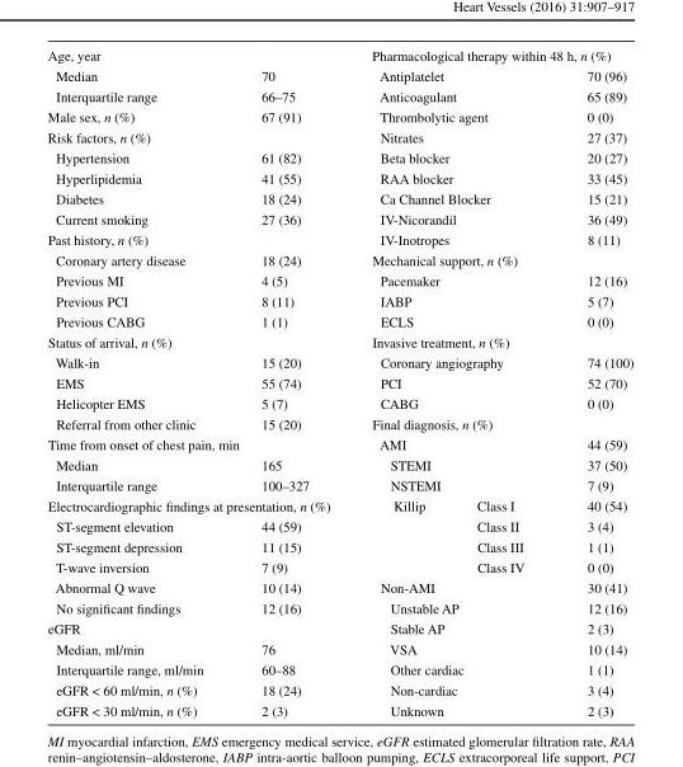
<table><tbody><tr><td colspan="2">Age, year</td><td colspan="3">Pharmacological therapy within 48 h, n (%)</td></tr><tr><td>Median</td><td>70</td><td colspan="2">Antiplatelet</td><td>70 (96)</td></tr><tr><td>Interquartile range</td><td>66–75</td><td colspan="2">Anticoagulant</td><td>65 (89)</td></tr><tr><td>Male sex, n (%)</td><td>67 (91)</td><td colspan="2">Thrombolytic agent</td><td>0 (0)</td></tr><tr><td colspan="2">Risk factors, n (%)</td><td colspan="2">Nitrates</td><td>27 (37)</td></tr><tr><td>Hypertension</td><td>61 (82)</td><td colspan="2">Beta blocker</td><td>20 (27)</td></tr><tr><td>Hyperlipidemia</td><td>41 (55)</td><td colspan="2">RAA blocker</td><td>33 (45)</td></tr><tr><td>Diabetes</td><td>18 (24)</td><td colspan="2">Ca Channel Blocker</td><td>15 (21)</td></tr><tr><td>Current smoking</td><td>27 (36)</td><td colspan="2">IV-Nicorandil</td><td>36 (49)</td></tr><tr><td colspan="2">Past history, n (%)</td><td colspan="2">IV-Inotropes</td><td>8 (11)</td></tr><tr><td>Coronary artery disease</td><td>18 (24)</td><td colspan="3">Mechanical support, n (%)</td></tr><tr><td>Previous MI</td><td>4 (5)</td><td colspan="2">Pacemaker</td><td>12 (16)</td></tr><tr><td>Previous PCI</td><td>8 (11)</td><td colspan="2">IABP</td><td>5 (7)</td></tr><tr><td>Previous CABG</td><td>1 (1)</td><td colspan="2">ECLS</td><td>0 (0)</td></tr><tr><td colspan="2">Status of arrival, n (%)</td><td colspan="3">Invasive treatment, n (%)</td></tr><tr><td>Walk-in</td><td>15 (20)</td><td colspan="2">Coronary angiography</td><td>74 (100)</td></tr><tr><td>EMS</td><td>55 (74)</td><td colspan="2">PCI</td><td>52 (70)</td></tr><tr><td>Helicopter EMS</td><td>5 (7)</td><td colspan="2">CABG</td><td>0 (0)</td></tr><tr><td>Referral from other clinic</td><td>15 (20)</td><td colspan="3">Final diagnosis, n (%)</td></tr><tr><td colspan="2">Time from onset of chest pain, min</td><td colspan="2">AMI</td><td>44 (59)</td></tr><tr><td>Median</td><td>165</td><td colspan="2">STEMI</td><td>37 (50)</td></tr><tr><td>Interquartile range</td><td>100–327</td><td colspan="2">NSTEMI</td><td>7 (9)</td></tr><tr><td colspan="2">Electrocardiographic findings at presentation, n (%)</td><td rowspan="4">Killip</td><td>Class I</td><td>40 (54)</td></tr><tr><td>ST-segment elevation</td><td>44 (59)</td><td>Class II</td><td>3 (4)</td></tr><tr><td>ST-segment depression</td><td>11 (15)</td><td>Class III</td><td>1 (1)</td></tr><tr><td>T-wave inversion</td><td>7 (9)</td><td>Class IV</td><td>0 (0)</td></tr><tr><td>Abnormal Q wave</td><td>10 (14)</td><td colspan="2">Non-AMI</td><td>30 (41)</td></tr><tr><td>No significant findings</td><td>12 (16)</td><td colspan="2">Unstable AP</td><td>12 (16)</td></tr><tr><td colspan="2">eGFR</td><td colspan="2">Stable AP</td><td>2 (3)</td></tr><tr><td>Median, ml/min</td><td>76</td><td colspan="2">VSA</td><td>10 (14)</td></tr><tr><td>Interquartile range, ml/min</td><td>60–88</td><td colspan="2">Other cardiac</td><td>1 (1)</td></tr><tr><td>eGFR &lt; 60 ml/min, n (%)</td><td>18 (24)</td><td colspan="2">Non-cardiac</td><td>3 (4)</td></tr><tr><td>eGFR &lt; 30 ml/min, n (%)</td><td>2 (3)</td><td colspan="2">Unknown</td><td>2 (3)</td></tr></tbody></table>